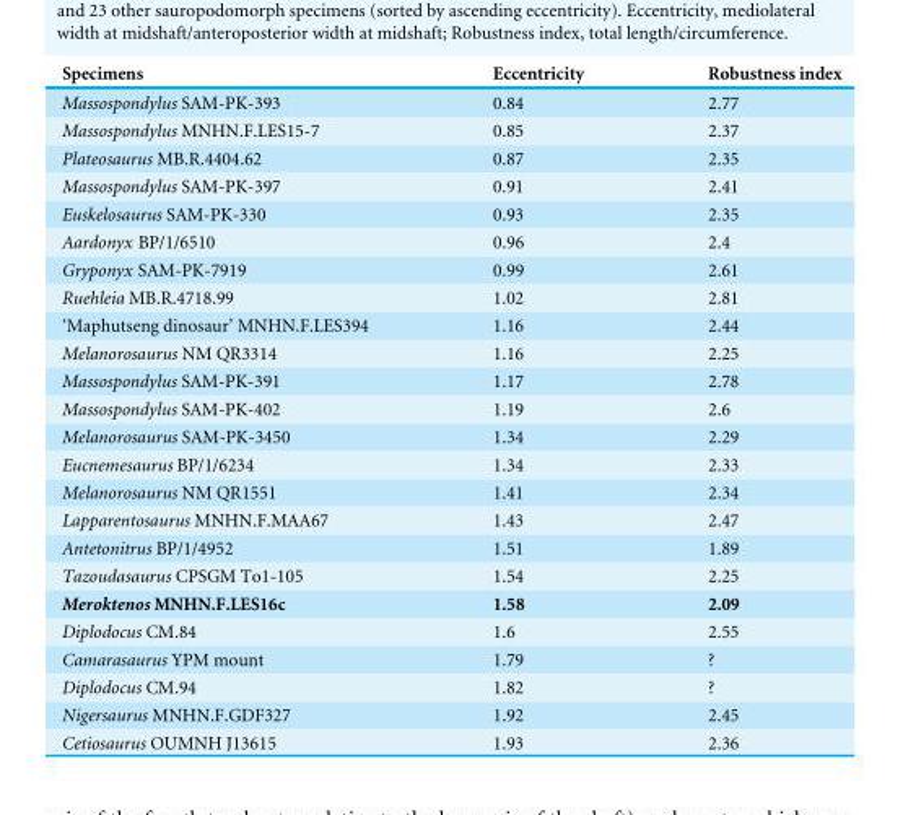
<table><thead><tr><td>Specimens</td><td>Eccentricity</td><td>Robustness index</td></tr></thead><tbody><tr><td>Massospondylus SAM-PK-393</td><td>0.84</td><td>2.77</td></tr><tr><td>Massospondylus MNHN.F.LES15-7</td><td>0.85</td><td>2.37</td></tr><tr><td>Plateosaurus MB.R.4404.62</td><td>0.87</td><td>2.35</td></tr><tr><td>Massospondylus SAM-PK-397</td><td>0.91</td><td>2.41</td></tr><tr><td>Euskelosaurus SAM-PK-330</td><td>0.93</td><td>2.35</td></tr><tr><td>Aardonyx BP/1/6510</td><td>0.96</td><td>2.4</td></tr><tr><td>Gryponyx SAM-PK-7919</td><td>0.99</td><td>2.61</td></tr><tr><td>Ruehleia MB.R.4718.99</td><td>1.02</td><td>2.81</td></tr><tr><td>‘Maphutseng dinosaur’ MNHN.F.LES394</td><td>1.16</td><td>2.44</td></tr><tr><td>Melanorosaurus NM QR3314</td><td>1.16</td><td>2.25</td></tr><tr><td>Massospondylus SAM-PK-391</td><td>1.17</td><td>2.78</td></tr><tr><td>Massospondylus SAM-PK-402</td><td>1.19</td><td>2.6</td></tr><tr><td>Melanorosaurus SAM-PK-3450</td><td>1.34</td><td>2.29</td></tr><tr><td>Eucnemesaurus BP/1/6234</td><td>1.34</td><td>2.33</td></tr><tr><td>Melanorosaurus NM QR1551</td><td>1.41</td><td>2.34</td></tr><tr><td>Lapparentosaurus MNHN.F.MAA67</td><td>1.43</td><td>2.47</td></tr><tr><td>Antetonitrus BP/1/4952</td><td>1.51</td><td>1.89</td></tr><tr><td>Tazoudasaurus CPSGM To1-105</td><td>1.54</td><td>2.25</td></tr><tr><td>Meroktenos MNHN.F.LES16c</td><td>1.58</td><td>2.09</td></tr><tr><td>Diplodocus CM.84</td><td>1.6</td><td>2.55</td></tr><tr><td>Camarasaurus YPM mount</td><td>1.79</td><td>?</td></tr><tr><td>Diplodocus CM.94</td><td>1.82</td><td>?</td></tr><tr><td>Nigersaurus MNHN.F.GDF327</td><td>1.92</td><td>2.45</td></tr><tr><td>Cetiosaurus OUMNH J13615</td><td>1.93</td><td>2.36</td></tr></tbody></table>